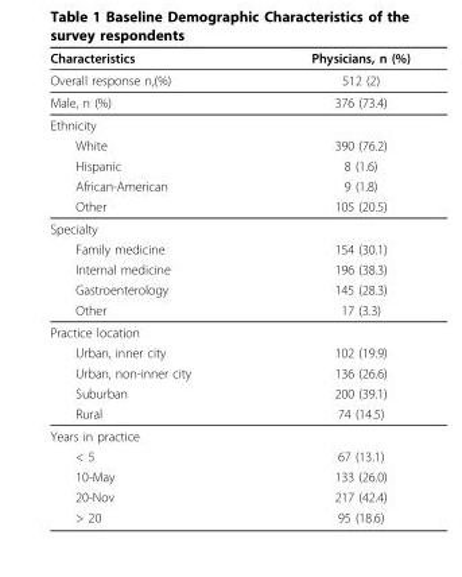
<table><thead><tr><td>Characteristics</td><td>Physicians, n (%)</td></tr></thead><tbody><tr><td>Overall response n,(%)</td><td>512 (2)</td></tr><tr><td>Male, n (%)</td><td>376 (73.4)</td></tr><tr><td colspan="2">Ethnicity</td></tr><tr><td>White</td><td>390 (76.2)</td></tr><tr><td>Hispanic</td><td>8 (1.6)</td></tr><tr><td>African-American</td><td>9 (1.8)</td></tr><tr><td>Other</td><td>105 (20.5)</td></tr><tr><td colspan="2">Specialty</td></tr><tr><td>Family medicine</td><td>154 (30.1)</td></tr><tr><td>Internal medicine</td><td>196 (38.3)</td></tr><tr><td>Gastroenterology</td><td>145 (28.3)</td></tr><tr><td>Other</td><td>17 (3.3)</td></tr><tr><td colspan="2">Practice location</td></tr><tr><td>Urban, inner city</td><td>102 (19.9)</td></tr><tr><td>Urban, non-inner city</td><td>136 (26.6)</td></tr><tr><td>Suburban</td><td>200 (39.1)</td></tr><tr><td>Rural</td><td>74 (14.5)</td></tr><tr><td colspan="2">Years in practice</td></tr><tr><td>&lt; 5</td><td>67 (13.1)</td></tr><tr><td>10-May</td><td>133 (26.0)</td></tr><tr><td>20-Nov</td><td>217 (42.4)</td></tr><tr><td>&gt; 20</td><td>95 (18.6)</td></tr></tbody></table>